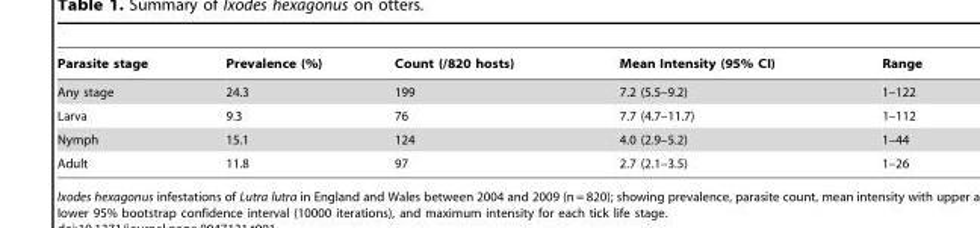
<table><thead><tr><td>Parasite stage</td><td>Prevalence (%)</td><td>Count (/820 hosts)</td><td>Mean Intensity (95% CI)</td><td>Range</td></tr></thead><tbody><tr><td>Any stage</td><td>24.3</td><td>199</td><td>7.2 (5.5–9.2)</td><td>1–122</td></tr><tr><td>Larva</td><td>9.3</td><td>76</td><td>7.7 (4.7–11.7)</td><td>1–112</td></tr><tr><td>Nymph</td><td>15.1</td><td>124</td><td>4.0 (2.9–5.2)</td><td>1–44</td></tr><tr><td>Adult</td><td>11.8</td><td>97</td><td>2.7 (2.1–3.5)</td><td>1–26</td></tr></tbody></table>